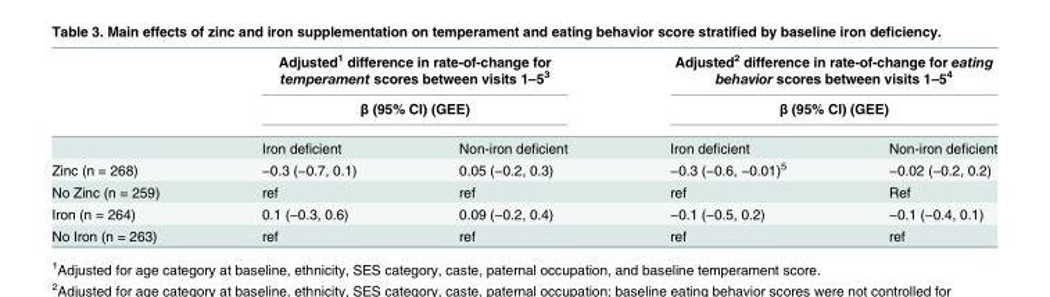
<table><thead><tr><td rowspan="3"></td><td rowspan="2" colspan="2">Adjusted<sup>1</sup> difference in rate-of-change for temperament scores between visits 1–5<sup>3</sup> β (95% CI) (GEE)</td><td rowspan="2" colspan="2">Adjusted<sup>2</sup> difference in rate-of-change for eating behavior scores between visits 1–5<sup>4</sup> β (95% CI) (GEE)</td></tr><tr></tr><tr><td>Iron deficient</td><td>Non-iron deficient</td><td>Iron deficient</td><td>Non-iron deficient</td></tr></thead><tbody><tr><td>Zinc (n = 268)</td><td>−0.3 (−0.7, 0.1)</td><td>0.05 (−0.2, 0.3)</td><td>−0.3 (−0.6, −0.01)<sup>5</sup></td><td>−0.02 (−0.2, 0.2)</td></tr><tr><td>No Zinc (n = 259)</td><td>ref</td><td>ref</td><td>ref</td><td>Ref</td></tr><tr><td>Iron (n = 264)</td><td>0.1 (−0.3, 0.6)</td><td>0.09 (−0.2, 0.4)</td><td>−0.1 (−0.5, 0.2)</td><td>−0.1 (−0.4, 0.1)</td></tr><tr><td>No Iron (n = 263)</td><td>ref</td><td>ref</td><td>ref</td><td>ref</td></tr></tbody></table>